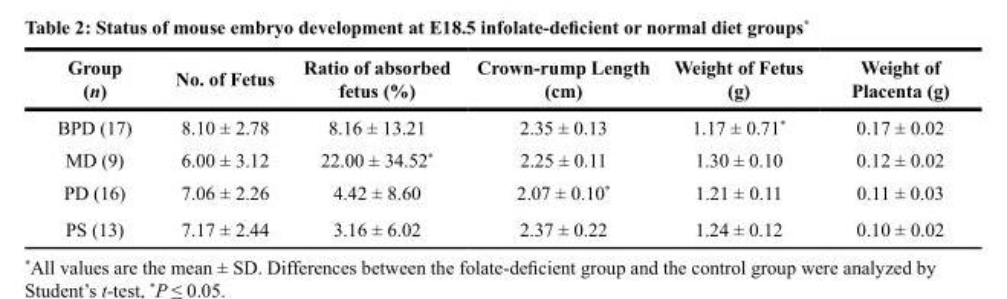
<table><thead><tr><td>Group (n)</td><td>No. of Fetus</td><td>Ratio of absorbed fetus (%)</td><td>Crown-rump Length (cm)</td><td>Weight of Fetus (g)</td><td>Weight of Placenta (g)</td></tr></thead><tbody><tr><td>BPD (17)</td><td>8.10 ± 2.78</td><td>8.16 ± 13.21</td><td>2.35 ± 0.13</td><td>1.17 ± 0.71*</td><td>0.17 ± 0.02</td></tr><tr><td>MD (9)</td><td>6.00 ± 3.12</td><td>22.00 ± 34.52*</td><td>2.25 ± 0.11</td><td>1.30 ± 0.10</td><td>0.12 ± 0.02</td></tr><tr><td>PD (16)</td><td>7.06 ± 2.26</td><td>4.42 ± 8.60</td><td>2.07 ± 0.10*</td><td>1.21 ± 0.11</td><td>0.11 ± 0.03</td></tr><tr><td>PS (13)</td><td>7.17 ± 2.44</td><td>3.16 ± 6.02</td><td>2.37 ± 0.22</td><td>1.24 ± 0.12</td><td>0.10 ± 0.02</td></tr></tbody></table>